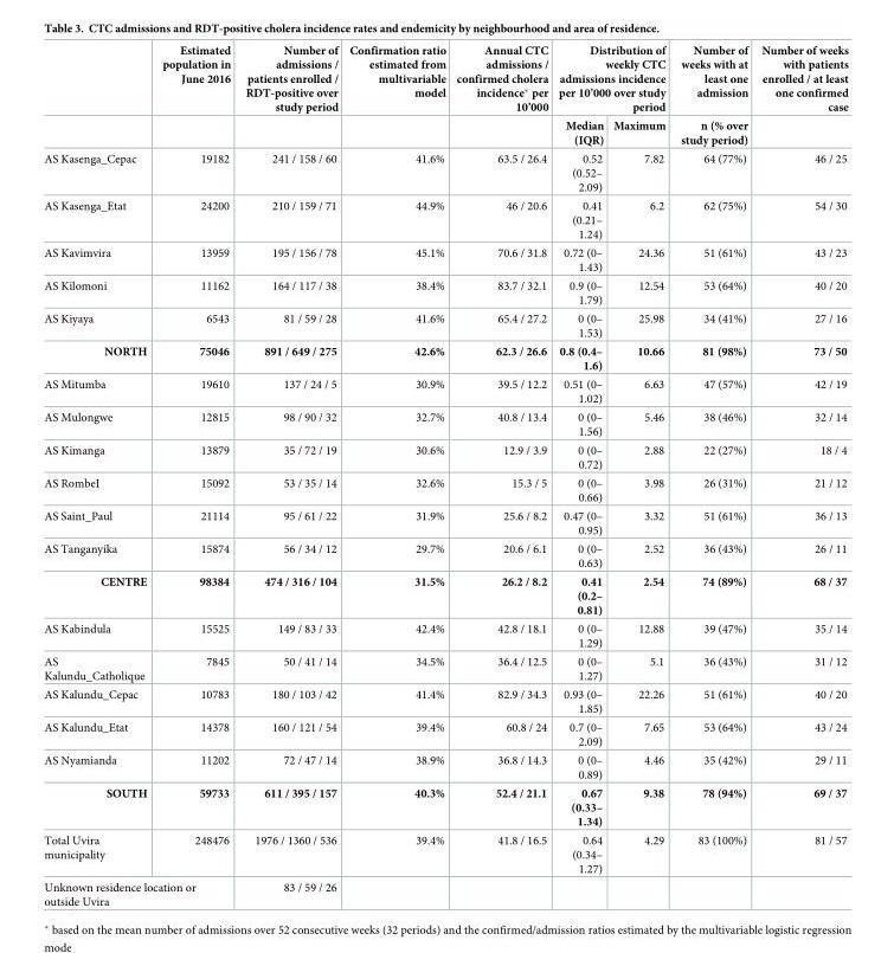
<table><thead><tr><td rowspan="2"></td><td rowspan="2">Estimated population in June 2016</td><td rowspan="2">Number of admissions / patients enrolled / RDT-positive over study period</td><td rowspan="2">Confirmation ratio estimated from multivariable model</td><td rowspan="2">Annual CTC admissions / confirmed cholera incidence* per 10’000</td><td colspan="2">Distribution of weekly CTC admissions incidence per 10’000 over study period</td><td rowspan="2">Number of weeks with at least one admission n (% over study period)</td><td rowspan="2">Number of weeks with patients enrolled / at least one confirmed case</td></tr><tr><td>Median (IQR)</td><td>Maximum</td></tr></thead><tbody><tr><td>AS Kasenga_Cepac</td><td>19182</td><td>241 / 158 / 60</td><td>41.6%</td><td>63.5 / 26.4</td><td>0.52 (0.52– 2.09)</td><td>7.82</td><td>64 (77%)</td><td>46 / 25</td></tr><tr><td>AS Kasenga_Etat</td><td>24200</td><td>210 / 159 / 71</td><td>44.9%</td><td>46 / 20.6</td><td>0.41 (0.21– 1.24)</td><td>6.2</td><td>62 (75%)</td><td>54 / 30</td></tr><tr><td>AS Kavimvira</td><td>13959</td><td>195 / 156 / 78</td><td>45.1%</td><td>70.6 / 31.8</td><td>0.72 (0– 1.43)</td><td>24.36</td><td>51 (61%)</td><td>43 / 23</td></tr><tr><td>AS Kilomoni</td><td>11162</td><td>164 / 117 / 38</td><td>38.4%</td><td>83.7 / 32.1</td><td>0.9 (0– 1.79)</td><td>12.54</td><td>53 (64%)</td><td>40 / 20</td></tr><tr><td>AS Kiyaya</td><td>6543</td><td>81 / 59 / 28</td><td>41.6%</td><td>65.4 / 27.2</td><td>0 (0– 1.53)</td><td>25.98</td><td>34 (41%)</td><td>27 / 16</td></tr><tr><td>NORTH</td><td>75046</td><td>891 / 649 / 275</td><td>42.6%</td><td>62.3 / 26.6</td><td>0.8 (0.4– 1.6)</td><td>10.66</td><td>81 (98%)</td><td>73 / 50</td></tr><tr><td>AS Mitumba</td><td>19610</td><td>137 / 24 / 5</td><td>30.9%</td><td>39.5 / 12.2</td><td>0.51 (0– 1.02)</td><td>6.63</td><td>47 (57%)</td><td>42 / 19</td></tr><tr><td>AS Mulongwe</td><td>12815</td><td>98 / 90 / 32</td><td>32.7%</td><td>40.8 / 13.4</td><td>0 (0– 1.56)</td><td>5.46</td><td>38 (46%)</td><td>32 / 14</td></tr><tr><td>AS Kimanga</td><td>13879</td><td>35 / 72 / 19</td><td>30.6%</td><td>12.9 / 3.9</td><td>0 (0– 0.72)</td><td>2.88</td><td>22 (27%)</td><td>18 / 4</td></tr><tr><td>AS RombeI</td><td>15092</td><td>53 / 35 / 14</td><td>32.6%</td><td>15.3 / 5</td><td>0 (0– 0.66)</td><td>3.98</td><td>26 (31%)</td><td>21 / 12</td></tr><tr><td>AS Saint_Paul</td><td>21114</td><td>95 / 61 / 22</td><td>31.9%</td><td>25.6 / 8.2</td><td>0.47 (0– 0.95)</td><td>3.32</td><td>51 (61%)</td><td>36 / 13</td></tr><tr><td>AS Tanganyika</td><td>15874</td><td>56 / 34 / 12</td><td>29.7%</td><td>20.6 / 6.1</td><td>0 (0– 0.63)</td><td>2.52</td><td>36 (43%)</td><td>26 / 11</td></tr><tr><td>CENTRE</td><td>98384</td><td>474 / 316 / 104</td><td>31.5%</td><td>26.2 / 8.2</td><td>0.41 (0.2– 0.81)</td><td>2.54</td><td>74 (89%)</td><td>68 / 37</td></tr><tr><td>AS Kabindula</td><td>15525</td><td>149 / 83 / 33</td><td>42.4%</td><td>42.8 / 18.1</td><td>0 (0– 1.29)</td><td>12.88</td><td>39 (47%)</td><td>35 / 14</td></tr><tr><td>AS Kalundu_Catholique</td><td>7845</td><td>50 / 41 / 14</td><td>34.5%</td><td>36.4 / 12.5</td><td>0 (0– 1.27)</td><td>5.1</td><td>36 (43%)</td><td>31 / 12</td></tr><tr><td>AS Kalundu_Cepac</td><td>10783</td><td>180 / 103 / 42</td><td>41.4%</td><td>82.9 / 34.3</td><td>0.93 (0– 1.85)</td><td>22.26</td><td>51 (61%)</td><td>40 / 20</td></tr><tr><td>AS Kalundu_Etat</td><td>14378</td><td>160 / 121 / 54</td><td>39.4%</td><td>60.8 / 24</td><td>0.7 (0– 2.09)</td><td>7.65</td><td>53 (64%)</td><td>43 / 24</td></tr><tr><td>AS Nyamianda</td><td>11202</td><td>72 / 47 / 14</td><td>38.9%</td><td>36.8 / 14.3</td><td>0 (0– 0.89)</td><td>4.46</td><td>35 (42%)</td><td>29 / 11</td></tr><tr><td>SOUTH</td><td>59733</td><td>611 / 395 / 157</td><td>40.3%</td><td>52.4 / 21.1</td><td>0.67 (0.33– 1.34)</td><td>9.38</td><td>78 (94%)</td><td>69 / 37</td></tr><tr><td>Total Uvira municipality</td><td>248476</td><td>1976 / 1360 / 536</td><td>39.4%</td><td>41.8 / 16.5</td><td>0.64 (0.34– 1.27)</td><td>4.29</td><td>83 (100%)</td><td>81 / 57</td></tr><tr><td colspan="2">Unknown residence location or outside Uvira</td><td>83 / 59 / 26</td><td></td><td></td><td></td><td></td><td></td><td></td></tr></tbody></table>